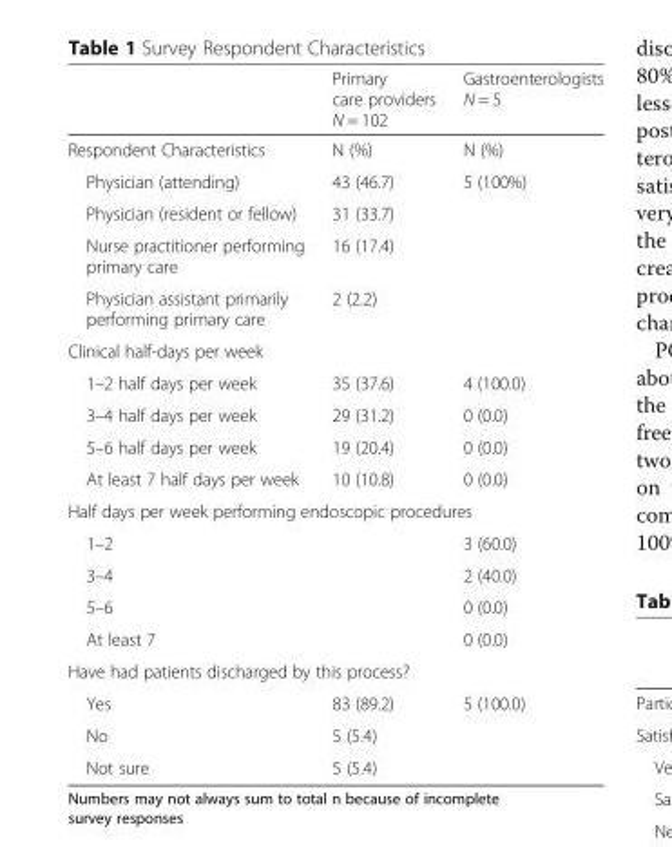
<table><thead><tr><td></td><td>Primary care providers N = 102</td><td>Gastroenterologists N = 5</td></tr></thead><tbody><tr><td>Respondent Characteristics</td><td>N (%)</td><td>N (%)</td></tr><tr><td>Physician (attending)</td><td>43 (46.7)</td><td>5 (100%)</td></tr><tr><td>Physician (resident or fellow)</td><td>31 (33.7)</td><td></td></tr><tr><td>Nurse practitioner performing primary care</td><td>16 (17.4)</td><td></td></tr><tr><td>Physician assistant primarily performing primary care</td><td>2 (2.2)</td><td></td></tr><tr><td colspan="3">Clinical half-days per week</td></tr><tr><td>1–2 half days per week</td><td>35 (37.6)</td><td>4 (100.0)</td></tr><tr><td>3–4 half days per week</td><td>29 (31.2)</td><td>0 (0.0)</td></tr><tr><td>5–6 half days per week</td><td>19 (20.4)</td><td>0 (0.0)</td></tr><tr><td>At least 7 half days per week</td><td>10 (10.8)</td><td>0 (0.0)</td></tr><tr><td colspan="3">Half days per week performing endoscopic procedures</td></tr><tr><td>1–2</td><td></td><td>3 (60.0)</td></tr><tr><td>3–4</td><td></td><td>2 (40.0)</td></tr><tr><td>5–6</td><td></td><td>0 (0.0)</td></tr><tr><td>At least 7</td><td></td><td>0 (0.0)</td></tr><tr><td colspan="3">Have had patients discharged by this process?</td></tr><tr><td>Yes</td><td>83 (89.2)</td><td>5 (100.0)</td></tr><tr><td>No</td><td>5 (5.4)</td><td></td></tr><tr><td>Not sure</td><td>5 (5.4)</td><td></td></tr></tbody></table>